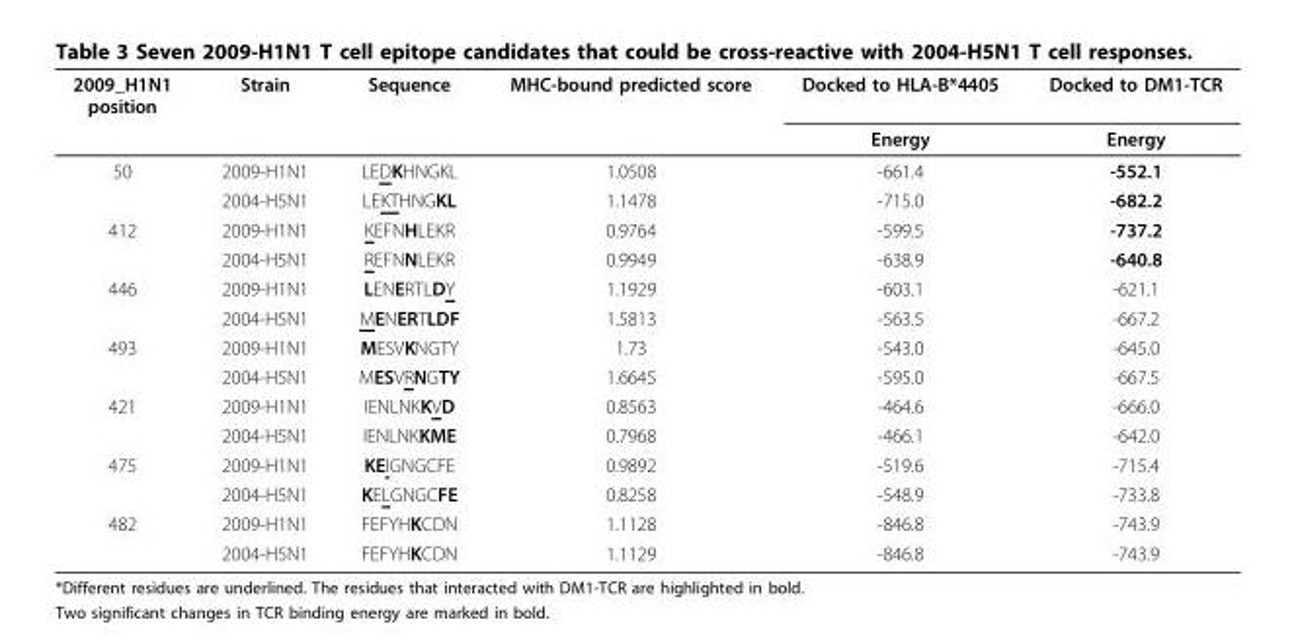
<table><thead><tr><td rowspan="2">2009_H1N1 position</td><td rowspan="2">Strain</td><td rowspan="2">Sequence</td><td rowspan="2">MHC-bound predicted score</td><td rowspan="2">Docked to HLA-B*4405 Energy</td><td rowspan="2">Docked to DM1-TCR Energy</td></tr><tr></tr></thead><tbody><tr><td rowspan="2">50</td><td>2009-H1N1</td><td>LEDKHNGKL</td><td>1.0508</td><td>-661.4</td><td>-552.1</td></tr><tr><td>2004-H5N1</td><td>LEKTHNGKL</td><td>1.1478</td><td>-715.0</td><td>-682.2</td></tr><tr><td rowspan="2">412</td><td>2009-H1N1</td><td>KEFNHLEKR</td><td>0.9764</td><td>-599.5</td><td>-737.2</td></tr><tr><td>2004-H5N1</td><td>REFNNLEKR</td><td>0.9949</td><td>-638.9</td><td>-640.8</td></tr><tr><td rowspan="2">446</td><td>2009-H1N1</td><td>LENERTLDY</td><td>1.1929</td><td>-603.1</td><td>-621.1</td></tr><tr><td>2004-H5N1</td><td>MENERTLDF</td><td>1.5813</td><td>-563.5</td><td>-667.2</td></tr><tr><td rowspan="2">493</td><td>2009-H1N1</td><td>MESVKNGTY</td><td>1.73</td><td>-543.0</td><td>-645.0</td></tr><tr><td>2004-H5N1</td><td>MESVRNGTY</td><td>1.6645</td><td>-595.0</td><td>-667.5</td></tr><tr><td rowspan="2">421</td><td>2009-H1N1</td><td>IENLNKKVD</td><td>0.8563</td><td>-464.6</td><td>-666.0</td></tr><tr><td>2004-H5N1</td><td>IENLNKKME</td><td>0.7968</td><td>-466.1</td><td>-642.0</td></tr><tr><td rowspan="2">475</td><td>2009-H1N1</td><td>KEIGNGCFE</td><td>0.9892</td><td>-519.6</td><td>-715.4</td></tr><tr><td>2004-H5N1</td><td>KELGNGCFE</td><td>0.8258</td><td>-548.9</td><td>-733.8</td></tr><tr><td rowspan="2">482</td><td>2009-H1N1</td><td>FEFYHKCDN</td><td>1.1128</td><td>-846.8</td><td>-743.9</td></tr><tr><td>2004-H5N1</td><td>FEFYHKCDN</td><td>1.1129</td><td>-846.8</td><td>-743.9</td></tr></tbody></table>